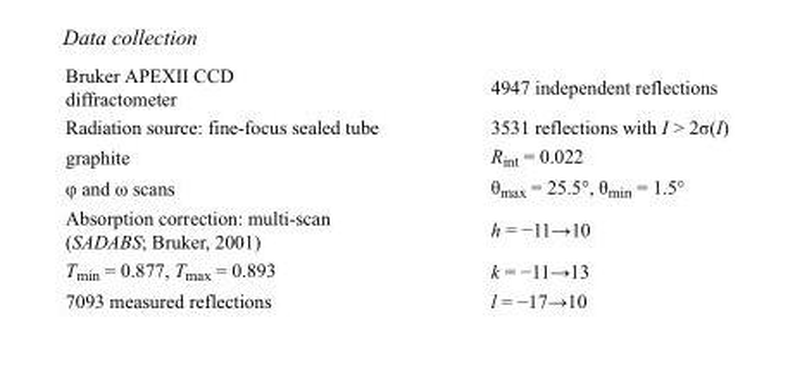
<table><tbody><tr><td>Bruker APEXII CCD diffractometer</td><td>4947 independent reflections</td></tr><tr><td>Radiation source: fine-focus sealed tube</td><td>3531 reflections with I &gt; 2σ(I)</td></tr><tr><td>graphite</td><td>R<sub>int</sub> = 0.022</td></tr><tr><td>φ and ω scans</td><td>θ<sub>max</sub> = 25.5°, θ<sub>min</sub> = 1.5°</td></tr><tr><td>Absorption correction: multi-scan (SADABS; Bruker, 2001)</td><td>h = −11→10</td></tr><tr><td>T<sub>min</sub> = 0.877, T<sub>max</sub> = 0.893</td><td>k = −11→13</td></tr><tr><td>7093 measured reflections</td><td>l = −17→10</td></tr></tbody></table>